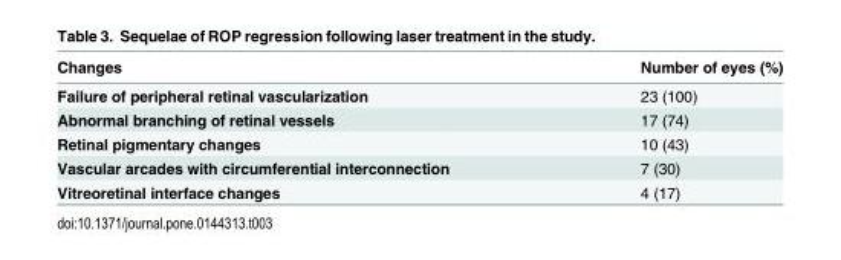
<table><thead><tr><td>Changes</td><td>Number of eyes (%)</td></tr></thead><tbody><tr><td>Failure of peripheral retinal vascularization</td><td>23 (100)</td></tr><tr><td>Abnormal branching of retinal vessels</td><td>17 (74)</td></tr><tr><td>Retinal pigmentary changes</td><td>10 (43)</td></tr><tr><td>Vascular arcades with circumferential interconnection</td><td>7 (30)</td></tr><tr><td>Vitreoretinal interface changes</td><td>4 (17)</td></tr></tbody></table>